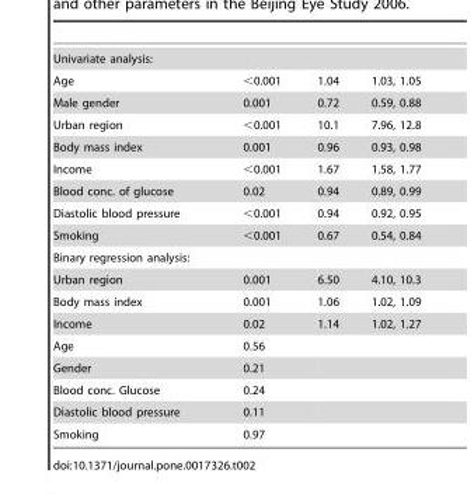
<table><tbody><tr><td colspan="4">Univariate analysis:</td></tr><tr><td>Age</td><td>&lt;0.001</td><td>1.04</td><td>1.03, 1.05</td></tr><tr><td>Male gender</td><td>0.001</td><td>0.72</td><td>0.59, 0.88</td></tr><tr><td>Urban region</td><td>&lt;0.001</td><td>10.1</td><td>7.96, 12.8</td></tr><tr><td>Body mass index</td><td>0.001</td><td>0.96</td><td>0.93, 0.98</td></tr><tr><td>Income</td><td>&lt;0.001</td><td>1.67</td><td>1.58, 1.77</td></tr><tr><td>Blood conc. of glucose</td><td>0.02</td><td>0.94</td><td>0.89, 0.99</td></tr><tr><td>Diastolic blood pressure</td><td>&lt;0.001</td><td>0.94</td><td>0.92, 0.95</td></tr><tr><td>Smoking</td><td>&lt;0.001</td><td>0.67</td><td>0.54, 0.84</td></tr><tr><td colspan="4">Binary regression analysis:</td></tr><tr><td>Urban region</td><td>0.001</td><td>6.50</td><td>4.10, 10.3</td></tr><tr><td>Body mass index</td><td>0.001</td><td>1.06</td><td>1.02, 1.09</td></tr><tr><td>Income</td><td>0.02</td><td>1.14</td><td>1.02, 1.27</td></tr><tr><td>Age</td><td>0.56</td><td></td><td></td></tr><tr><td>Gender</td><td>0.21</td><td></td><td></td></tr><tr><td>Blood conc. Glucose</td><td>0.24</td><td></td><td></td></tr><tr><td>Diastolic blood pressure</td><td>0.11</td><td></td><td></td></tr><tr><td>Smoking</td><td>0.97</td><td></td><td></td></tr></tbody></table>